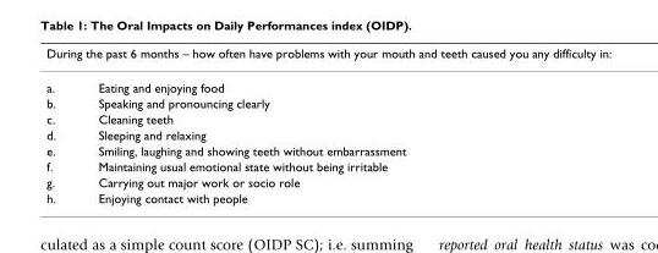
<table><thead><tr><td colspan="2">During the past 6 months – how often have problems with your mouth and teeth caused you any difficulty in:</td></tr><tr><td>a.</td><td>Eating and enjoying food</td></tr></thead><tbody><tr><td>b.</td><td>Speaking and pronouncing clearly</td></tr><tr><td>c.</td><td>Cleaning teeth</td></tr><tr><td>d.</td><td>Sleeping and relaxing</td></tr><tr><td>e.</td><td>Smiling, laughing and showing teeth without embarrassment</td></tr><tr><td>f.</td><td>Maintaining usual emotional state without being irritable</td></tr><tr><td>g.</td><td>Carrying out major work or socio role</td></tr><tr><td>h.</td><td>Enjoying contact with people</td></tr></tbody></table>